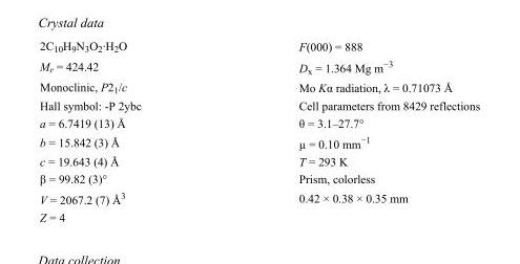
<table><tbody><tr><td>2C<sub>10</sub>H<sub>9</sub>N<sub>3</sub>O<sub>2</sub>·H<sub>2</sub>O</td><td>F(000) = 888</td></tr><tr><td>M<sub>r</sub> = 424.42</td><td>D<sub>x</sub> = 1.364 Mg m<sup>−3</sup></td></tr><tr><td>Monoclinic, P2<sub>1</sub>/c</td><td>Mo Kα radiation, λ = 0.71073 Å</td></tr><tr><td>Hall symbol: -P 2ybc</td><td>Cell parameters from 8429 reflections</td></tr><tr><td>a = 6.7419 (13) Å</td><td>θ = 3.1–27.7°</td></tr><tr><td>b = 15.842 (3) Å</td><td>µ = 0.10 mm<sup>−1</sup></td></tr><tr><td>c = 19.643 (4) Å</td><td>T = 293 K</td></tr><tr><td>β = 99.82 (3)°</td><td>Prism, colorless</td></tr><tr><td>V = 2067.2 (7) Å<sup>3</sup></td><td>0.42 × 0.38 × 0.35 mm</td></tr><tr><td>Z = 4</td><td></td></tr></tbody></table>